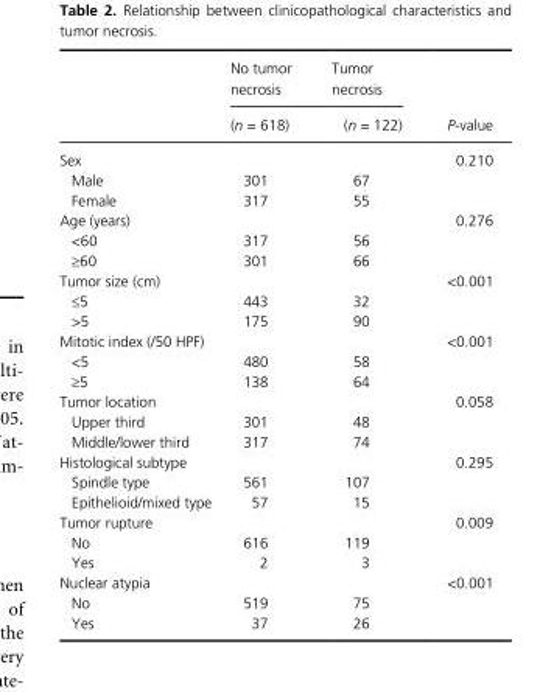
<table><thead><tr><td rowspan="2"></td><td rowspan="2">No tumor necrosis (n = 618)</td><td rowspan="2">Tumor necrosis (n = 122)</td><td rowspan="2">P- value</td></tr><tr></tr></thead><tbody><tr><td>Sex</td><td></td><td></td><td>0.210</td></tr><tr><td>Male</td><td>301</td><td>67</td><td></td></tr><tr><td>Female</td><td>317</td><td>55</td><td></td></tr><tr><td>Age (years)</td><td></td><td></td><td>0.276</td></tr><tr><td>&lt;60</td><td>317</td><td>56</td><td></td></tr><tr><td>≥60</td><td>301</td><td>66</td><td></td></tr><tr><td>Tumor size (cm)</td><td></td><td></td><td>&lt;0.001</td></tr><tr><td>≤5</td><td>443</td><td>32</td><td></td></tr><tr><td>&gt;5</td><td>175</td><td>90</td><td></td></tr><tr><td>Mitotic index (/50 HPF)</td><td></td><td></td><td>&lt;0.001</td></tr><tr><td>&lt;5</td><td>480</td><td>58</td><td></td></tr><tr><td>≥5</td><td>138</td><td>64</td><td></td></tr><tr><td>Tumor location</td><td></td><td></td><td>0.058</td></tr><tr><td>Upper third</td><td>301</td><td>48</td><td></td></tr><tr><td>Middle/lower third</td><td>317</td><td>74</td><td></td></tr><tr><td>Histological subtype</td><td></td><td></td><td>0.295</td></tr><tr><td>Spindle type</td><td>561</td><td>107</td><td></td></tr><tr><td>Epithelioid/mixed type</td><td>57</td><td>15</td><td></td></tr><tr><td>Tumor rupture</td><td></td><td></td><td>0.009</td></tr><tr><td>No</td><td>616</td><td>119</td><td></td></tr><tr><td>Yes</td><td>2</td><td>3</td><td></td></tr><tr><td>Nuclear atypia</td><td></td><td></td><td>&lt;0.001</td></tr><tr><td>No</td><td>519</td><td>75</td><td></td></tr><tr><td>Yes</td><td>37</td><td>26</td><td></td></tr></tbody></table>